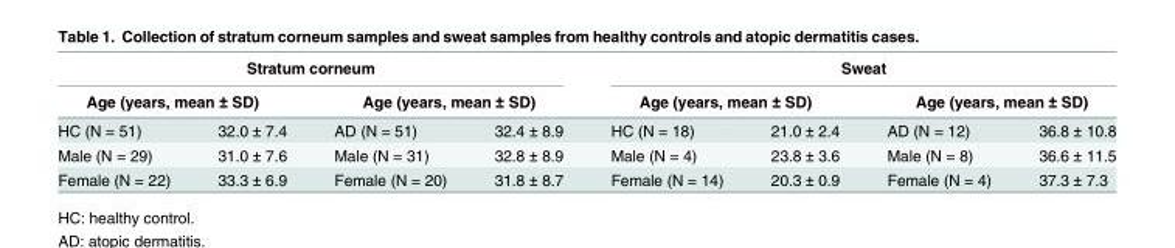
<table><thead><tr><td colspan="4">Stratum corneum</td><td colspan="4">Sweat</td></tr><tr><td colspan="2">Age (years, mean ± SD)</td><td colspan="2">Age (years, mean ± SD)</td><td colspan="2">Age (years, mean ± SD)</td><td colspan="2">Age (years, mean ± SD)</td></tr><tr><td>HC (N = 51)</td><td>32.0 ± 7.4</td><td>AD (N = 51)</td><td>32.4 ± 8.9</td><td>HC (N = 18)</td><td>21.0 ± 2.4</td><td>AD (N = 12)</td><td>36.8 ± 10.8</td></tr></thead><tbody><tr><td>Male (N = 29)</td><td>31.0 ± 7.6</td><td>Male (N = 31)</td><td>32.8 ± 8.9</td><td>Male (N = 4)</td><td>23.8 ± 3.6</td><td>Male (N = 8)</td><td>36.6 ± 11.5</td></tr><tr><td>Female (N = 22)</td><td>33.3 ± 6.9</td><td>Female (N = 20)</td><td>31.8 ± 8.7</td><td>Female (N = 14)</td><td>20.3 ± 0.9</td><td>Female (N = 4)</td><td>37.3 ± 7.3</td></tr></tbody></table>